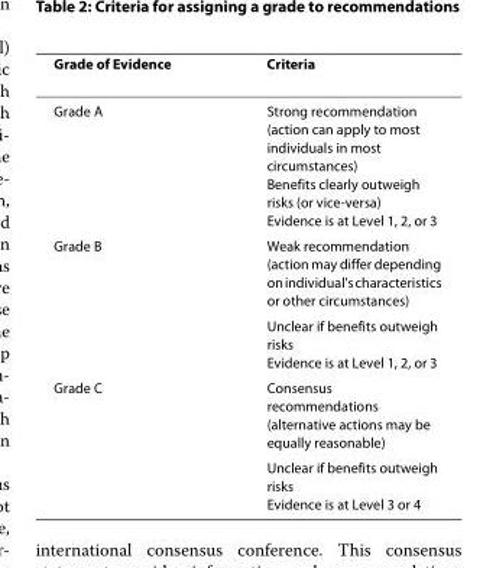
<table><thead><tr><td>Grade of Evidence</td><td>Criteria</td></tr></thead><tbody><tr><td>Grade A</td><td>Strong recommendation (action can apply to most individuals in most circumstances) Benefits clearly outweigh risks (or vice-versa) Evidence is at Level 1, 2, or 3</td></tr><tr><td rowspan="2">Grade B</td><td>Weak recommendation (action may differ depending on individual&#x27;s characteristics or other circumstances)</td></tr><tr><td>Unclear if benefits outweigh risks Evidence is at Level 1, 2, or 3</td></tr><tr><td rowspan="2">Grade C</td><td>Consensus recommendations (alternative actions may be equally reasonable)</td></tr><tr><td>Unclear if benefits outweigh risks Evidence is at Level 3 or 4</td></tr></tbody></table>